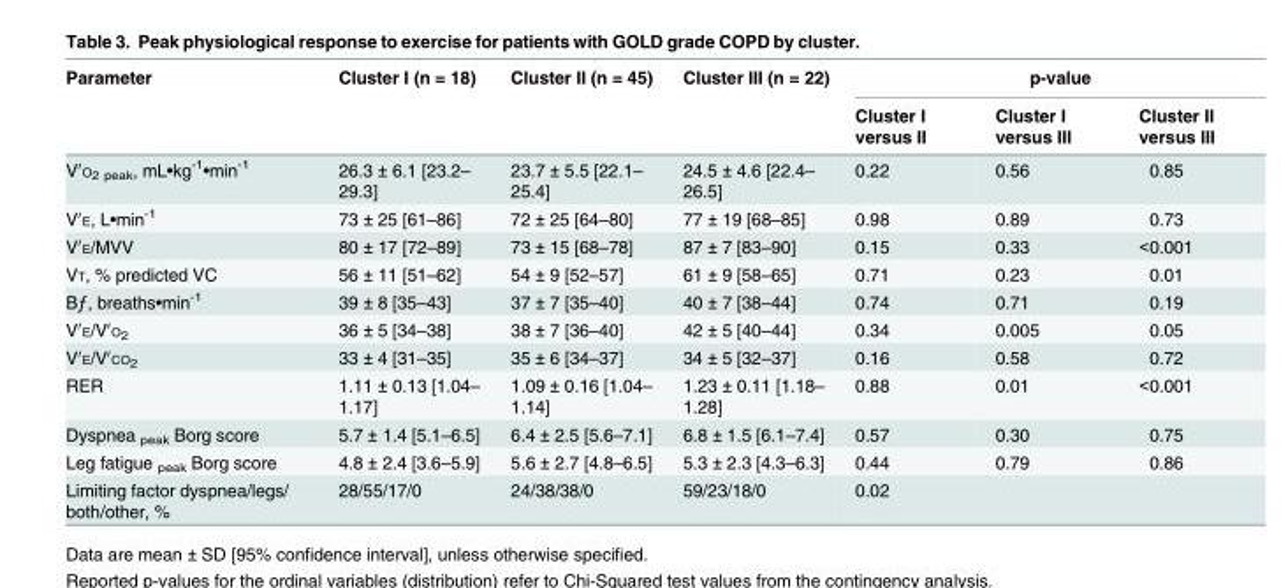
<table><thead><tr><td rowspan="2">Parameter</td><td rowspan="2">Cluster I (n = 18)</td><td rowspan="2">Cluster II (n = 45)</td><td rowspan="2">Cluster III (n = 22)</td><td colspan="3">p-value</td></tr><tr><td>Cluster I versus II</td><td>Cluster I versus III</td><td>Cluster II versus III</td></tr></thead><tbody><tr><td>VʹO<sub>2 peak</sub>, mL•kg<sup>-1</sup>•min<sup>-1</sup></td><td>26.3 ± 6.1 [23.2– 29.3]</td><td>23.7 ± 5.5 [22.1– 25.4]</td><td>24.5 ± 4.6 [22.4– 26.5]</td><td>0.22</td><td>0.56</td><td>0.85</td></tr><tr><td>VʹE, L•min<sup>-1</sup></td><td>73 ± 25 [61–86]</td><td>72 ± 25 [64–80]</td><td>77 ± 19 [68–85]</td><td>0.98</td><td>0.89</td><td>0.73</td></tr><tr><td>VʹE/MVV</td><td>80 ± 17 [72–89]</td><td>73 ± 15 [68–78]</td><td>87 ± 7 [83–90]</td><td>0.15</td><td>0.33</td><td>&lt;0.001</td></tr><tr><td>VT, % predicted VC</td><td>56 ± 11 [51–62]</td><td>54 ± 9 [52–57]</td><td>61 ± 9 [58–65]</td><td>0.71</td><td>0.23</td><td>0.01</td></tr><tr><td>Bƒ, breaths•min<sup>-1</sup></td><td>39 ± 8 [35–43]</td><td>37 ± 7 [35–40]</td><td>40 ± 7 [38–44]</td><td>0.74</td><td>0.71</td><td>0.19</td></tr><tr><td>VʹE/VʹO<sub>2</sub></td><td>36 ± 5 [34–38]</td><td>38 ± 7 [36–40]</td><td>42 ± 5 [40–44]</td><td>0.34</td><td>0.005</td><td>0.05</td></tr><tr><td>VʹE/VʹCO<sub>2</sub></td><td>33 ± 4 [31–35]</td><td>35 ± 6 [34–37]</td><td>34 ± 5 [32–37]</td><td>0.16</td><td>0.58</td><td>0.72</td></tr><tr><td>RER</td><td>1.11 ± 0.13 [1.04– 1.17]</td><td>1.09 ± 0.16 [1.04– 1.14]</td><td>1.23 ± 0.11 [1.18– 1.28]</td><td>0.88</td><td>0.01</td><td>&lt;0.001</td></tr><tr><td>Dyspnea <sub>peak</sub> Borg score</td><td>5.7 ± 1.4 [5.1–6.5]</td><td>6.4 ± 2.5 [5.6–7.1]</td><td>6.8 ± 1.5 [6.1–7.4]</td><td>0.57</td><td>0.30</td><td>0.75</td></tr><tr><td>Leg fatigue <sub>peak</sub> Borg score</td><td>4.8 ± 2.4 [3.6–5.9]</td><td>5.6 ± 2.7 [4.8–6.5]</td><td>5.3 ± 2.3 [4.3–6.3]</td><td>0.44</td><td>0.79</td><td>0.86</td></tr><tr><td>Limiting factor dyspnea/legs/ both/other, %</td><td>28/55/17/0</td><td>24/38/38/0</td><td>59/23/18/0</td><td colspan="3">0.02</td></tr></tbody></table>